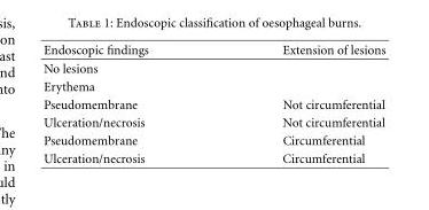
<table><thead><tr><td>Endoscopic findings</td><td>Extension of lesions</td></tr></thead><tbody><tr><td colspan="2">No lesions</td></tr><tr><td colspan="2">Erythema</td></tr><tr><td>Pseudomembrane</td><td>Not circumferential</td></tr><tr><td>Ulceration/necrosis</td><td>Not circumferential</td></tr><tr><td>Pseudomembrane</td><td>Circumferential</td></tr><tr><td>Ulceration/necrosis</td><td>Circumferential</td></tr></tbody></table>